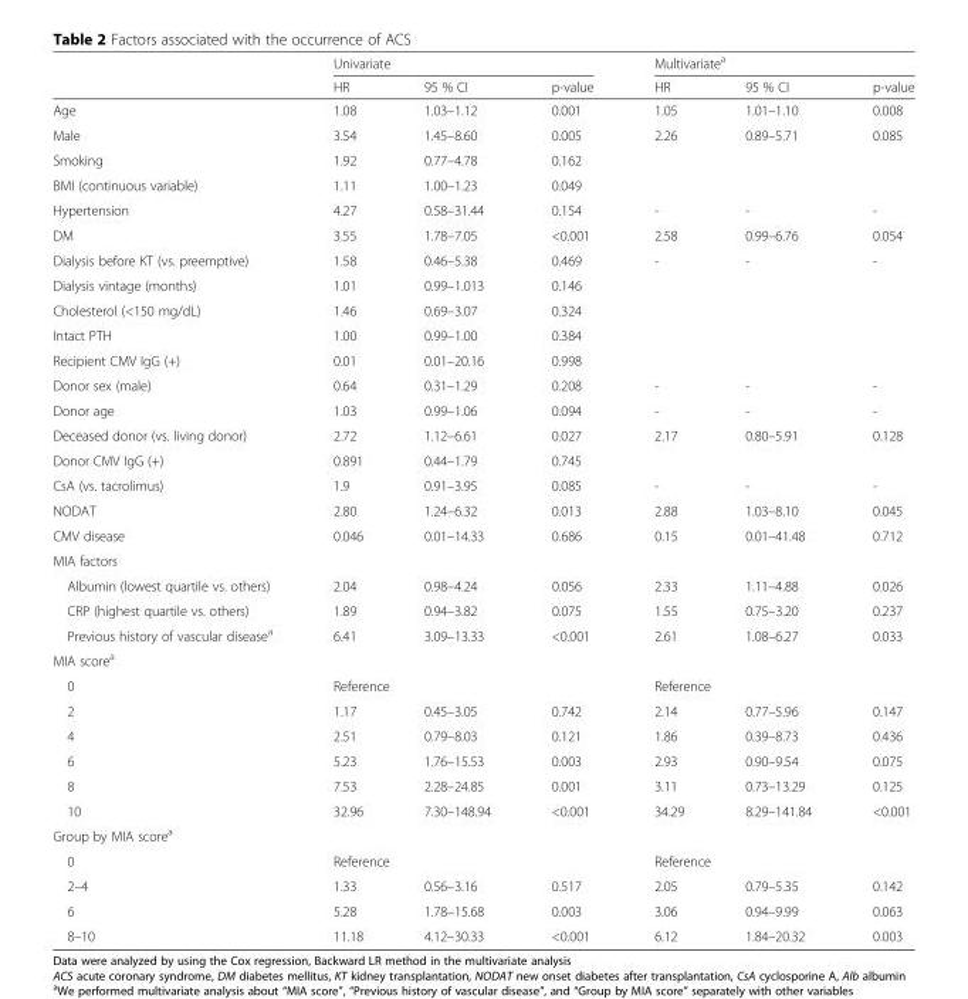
<table><thead><tr><td rowspan="2"></td><td colspan="3">Univariate</td><td colspan="3">Multivariate<sup>a</sup></td></tr><tr><td>HR</td><td>95 % CI</td><td>p-value</td><td>HR</td><td>95 % CI</td><td>p-value</td></tr></thead><tbody><tr><td>Age</td><td>1.08</td><td>1.03–1.12</td><td>0.001</td><td>1.05</td><td>1.01–1.10</td><td>0.008</td></tr><tr><td>Male</td><td>3.54</td><td>1.45–8.60</td><td>0.005</td><td>2.26</td><td>0.89–5.71</td><td>0.085</td></tr><tr><td>Smoking</td><td>1.92</td><td>0.77–4.78</td><td>0.162</td><td></td><td></td><td></td></tr><tr><td>BMI (continuous variable)</td><td>1.11</td><td>1.00–1.23</td><td>0.049</td><td></td><td></td><td></td></tr><tr><td>Hypertension</td><td>4.27</td><td>0.58–31.44</td><td>0.154</td><td>-</td><td>-</td><td>-</td></tr><tr><td>DM</td><td>3.55</td><td>1.78–7.05</td><td>&lt;0.001</td><td>2.58</td><td>0.99–6.76</td><td>0.054</td></tr><tr><td>Dialysis before KT (vs. preemptive)</td><td>1.58</td><td>0.46–5.38</td><td>0.469</td><td>-</td><td>-</td><td>-</td></tr><tr><td>Dialysis vintage (months)</td><td>1.01</td><td>0.99–1.013</td><td>0.146</td><td></td><td></td><td></td></tr><tr><td>Cholesterol (&lt;150 mg/dL)</td><td>1.46</td><td>0.69–3.07</td><td>0.324</td><td></td><td></td><td></td></tr><tr><td>Intact PTH</td><td>1.00</td><td>0.99–1.00</td><td>0.384</td><td></td><td></td><td></td></tr><tr><td>Recipient CMV IgG (+)</td><td>0.01</td><td>0.01–20.16</td><td>0.998</td><td></td><td></td><td></td></tr><tr><td>Donor sex (male)</td><td>0.64</td><td>0.31–1.29</td><td>0.208</td><td>-</td><td>-</td><td>-</td></tr><tr><td>Donor age</td><td>1.03</td><td>0.99–1.06</td><td>0.094</td><td>-</td><td>-</td><td>-</td></tr><tr><td>Deceased donor (vs. living donor)</td><td>2.72</td><td>1.12–6.61</td><td>0.027</td><td>2.17</td><td>0.80–5.91</td><td>0.128</td></tr><tr><td>Donor CMV IgG (+)</td><td>0.891</td><td>0.44–1.79</td><td>0.745</td><td></td><td></td><td></td></tr><tr><td>CsA (vs. tacrolimus)</td><td>1.9</td><td>0.91–3.95</td><td>0.085</td><td>-</td><td>-</td><td>-</td></tr><tr><td>NODAT</td><td>2.80</td><td>1.24–6.32</td><td>0.013</td><td>2.88</td><td>1.03–8.10</td><td>0.045</td></tr><tr><td>CMV disease</td><td>0.046</td><td>0.01–14.33</td><td>0.686</td><td>0.15</td><td>0.01–41.48</td><td>0.712</td></tr><tr><td colspan="7">MIA factors</td></tr><tr><td>Albumin (lowest quartile vs. others)</td><td>2.04</td><td>0.98–4.24</td><td>0.056</td><td>2.33</td><td>1.11–4.88</td><td>0.026</td></tr><tr><td>CRP (highest quartile vs. others)</td><td>1.89</td><td>0.94–3.82</td><td>0.075</td><td>1.55</td><td>0.75–3.20</td><td>0.237</td></tr><tr><td>Previous history of vascular disease<sup>a</sup></td><td>6.41</td><td>3.09–13.33</td><td>&lt;0.001</td><td>2.61</td><td>1.08–6.27</td><td>0.033</td></tr><tr><td colspan="7">MIA score<sup>a</sup></td></tr><tr><td>0</td><td colspan="3">Reference</td><td colspan="3">Reference</td></tr><tr><td>2</td><td>1.17</td><td>0.45–3.05</td><td>0.742</td><td>2.14</td><td>0.77–5.96</td><td>0.147</td></tr><tr><td>4</td><td>2.51</td><td>0.79–8.03</td><td>0.121</td><td>1.86</td><td>0.39–8.73</td><td>0.436</td></tr><tr><td>6</td><td>5.23</td><td>1.76–15.53</td><td>0.003</td><td>2.93</td><td>0.90–9.54</td><td>0.075</td></tr><tr><td>8</td><td>7.53</td><td>2.28–24.85</td><td>0.001</td><td>3.11</td><td>0.73–13.29</td><td>0.125</td></tr><tr><td>10</td><td>32.96</td><td>7.30–148.94</td><td>&lt;0.001</td><td>34.29</td><td>8.29–141.84</td><td>&lt;0.001</td></tr><tr><td colspan="7">Group by MIA score<sup>a</sup></td></tr><tr><td>0</td><td colspan="3">Reference</td><td colspan="3">Reference</td></tr><tr><td>2–4</td><td>1.33</td><td>0.56–3.16</td><td>0.517</td><td>2.05</td><td>0.79–5.35</td><td>0.142</td></tr><tr><td>6</td><td>5.28</td><td>1.78–15.68</td><td>0.003</td><td>3.06</td><td>0.94–9.99</td><td>0.063</td></tr><tr><td>8–10</td><td>11.18</td><td>4.12–30.33</td><td>&lt;0.001</td><td>6.12</td><td>1.84–20.32</td><td>0.003</td></tr></tbody></table>